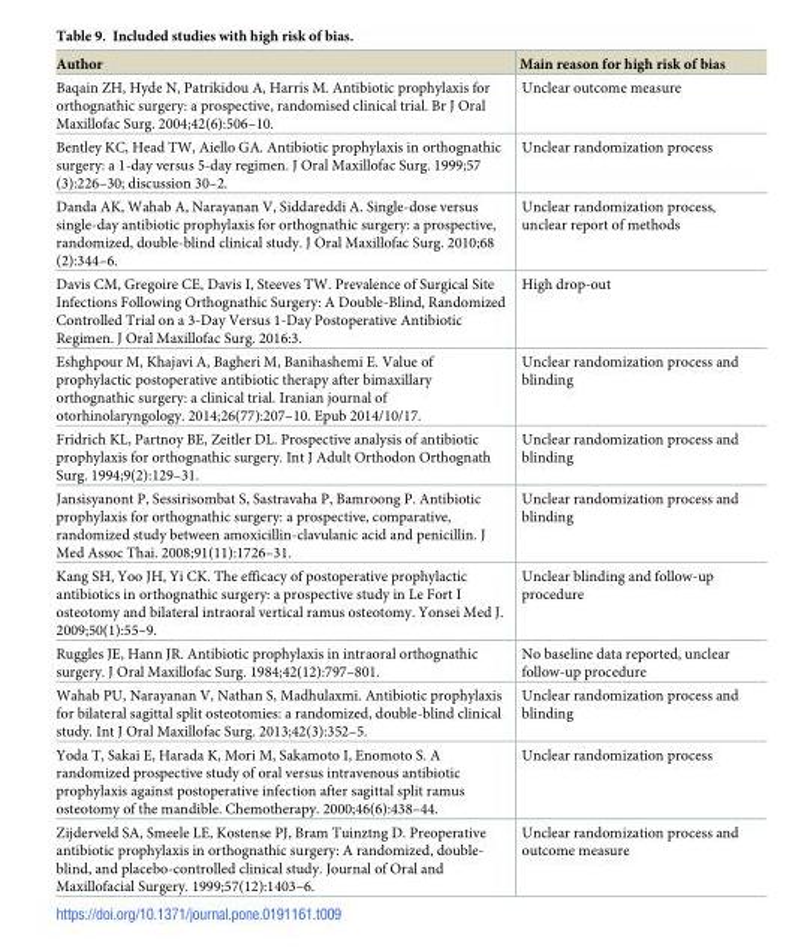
<table><thead><tr><td>Author</td><td>Main reason for high risk of bias</td></tr></thead><tbody><tr><td>Baqain ZH, Hyde N, Patrikidou A, Harris M. Antibiotic prophylaxis for orthognathic surgery: a prospective, randomised clinical trial. Br J Oral Maxillofac Surg. 2004;42(6):506–10.</td><td>Unclear outcome measure</td></tr><tr><td>Bentley KC, Head TW, Aiello GA. Antibiotic prophylaxis in orthognathic surgery: a 1-day versus 5-day regimen. J Oral Maxillofac Surg. 1999;57 (3):226–30; discussion 30–2.</td><td>Unclear randomization process</td></tr><tr><td>Danda AK, Wahab A, Narayanan V, Siddareddi A. Single-dose versus single-day antibiotic prophylaxis for orthognathic surgery: a prospective, randomized, double-blind clinical study. J Oral Maxillofac Surg. 2010;68 (2):344–6.</td><td>Unclear randomization process, unclear report of methods</td></tr><tr><td>Davis CM, Gregoire CE, Davis I, Steeves TW. Prevalence of Surgical Site Infections Following Orthognathic Surgery: A Double-Blind, Randomized Controlled Trial on a 3-Day Versus 1-Day Postoperative Antibiotic Regimen. J Oral Maxillofac Surg. 2016:3.</td><td>High drop-out</td></tr><tr><td>Eshghpour M, Khajavi A, Bagheri M, Banihashemi E. Value of prophylactic postoperative antibiotic therapy after bimaxillary orthognathic surgery: a clinical trial. Iranian journal of otorhinolaryngology. 2014;26(77):207–10. Epub 2014/10/17.</td><td>Unclear randomization process and blinding</td></tr><tr><td>Fridrich KL, Partnoy BE, Zeitler DL. Prospective analysis of antibiotic prophylaxis for orthognathic surgery. Int J Adult Orthodon Orthognath Surg. 1994;9(2):129–31.</td><td>Unclear randomization process and blinding</td></tr><tr><td>Jansisyanont P, Sessirisombat S, Sastravaha P, Bamroong P. Antibiotic prophylaxis for orthognathic surgery: a prospective, comparative, randomized study between amoxicillin-clavulanic acid and penicillin. J Med Assoc Thai. 2008;91(11):1726–31.</td><td>Unclear randomization process and blinding</td></tr><tr><td>Kang SH, Yoo JH, Yi CK. The efficacy of postoperative prophylactic antibiotics in orthognathic surgery: a prospective study in Le Fort I osteotomy and bilateral intraoral vertical ramus osteotomy. Yonsei Med J. 2009;50(1):55–9.</td><td>Unclear blinding and follow-up procedure</td></tr><tr><td>Ruggles JE, Hann JR. Antibiotic prophylaxis in intraoral orthognathic surgery. J Oral Maxillofac Surg. 1984;42(12):797–801.</td><td>No baseline data reported, unclear follow-up procedure</td></tr><tr><td>Wahab PU, Narayanan V, Nathan S, Madhulaxmi. Antibiotic prophylaxis for bilateral sagittal split osteotomies: a randomized, double-blind clinical study. Int J Oral Maxillofac Surg. 2013;42(3):352–5.</td><td>Unclear randomization process and blinding</td></tr><tr><td>Yoda T, Sakai E, Harada K, Mori M, Sakamoto I, Enomoto S. A randomized prospective study of oral versus intravenous antibiotic prophylaxis against postoperative infection after sagittal split ramus osteotomy of the mandible. Chemotherapy. 2000;46(6):438–44.</td><td>Unclear randomization process</td></tr><tr><td>Zijderveld SA, Smeele LE, Kostense PJ, Bram Tuinztng D. Preoperative antibiotic prophylaxis in orthognathic surgery: A randomized, double- blind, and placebo-controlled clinical study. Journal of Oral and Maxillofacial Surgery. 1999;57(12):1403–6.</td><td>Unclear randomization process and outcome measure</td></tr></tbody></table>